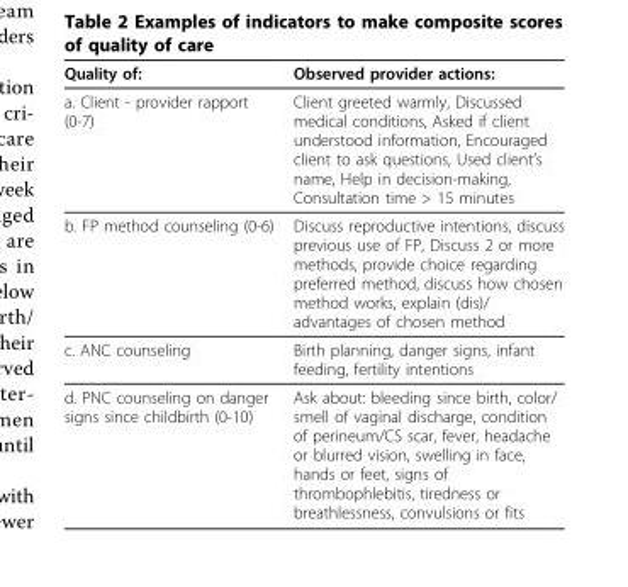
<table><thead><tr><td>Quality of:</td><td>Observed provider actions:</td></tr></thead><tbody><tr><td>a. Client - provider rapport (0-7)</td><td>Client greeted warmly, Discussed medical conditions, Asked if client understood information, Encouraged client to ask questions, Used client’s name, Help in decision-making, Consultation time &gt; 15 minutes</td></tr><tr><td>b. FP method counseling (0-6)</td><td>Discuss reproductive intentions, discuss previous use of FP, Discuss 2 or more methods, provide choice regarding preferred method, discuss how chosen method works, explain (dis)/ advantages of chosen method</td></tr><tr><td>c. ANC counseling</td><td>Birth planning, danger signs, infant feeding, fertility intentions</td></tr><tr><td>d. PNC counseling on danger signs since childbirth (0-10)</td><td>Ask about: bleeding since birth, color/ smell of vaginal discharge, condition of perineum/CS scar, fever, headache or blurred vision, swelling in face, hands or feet, signs of thrombophlebitis, tiredness or breathlessness, convulsions or fits</td></tr></tbody></table>